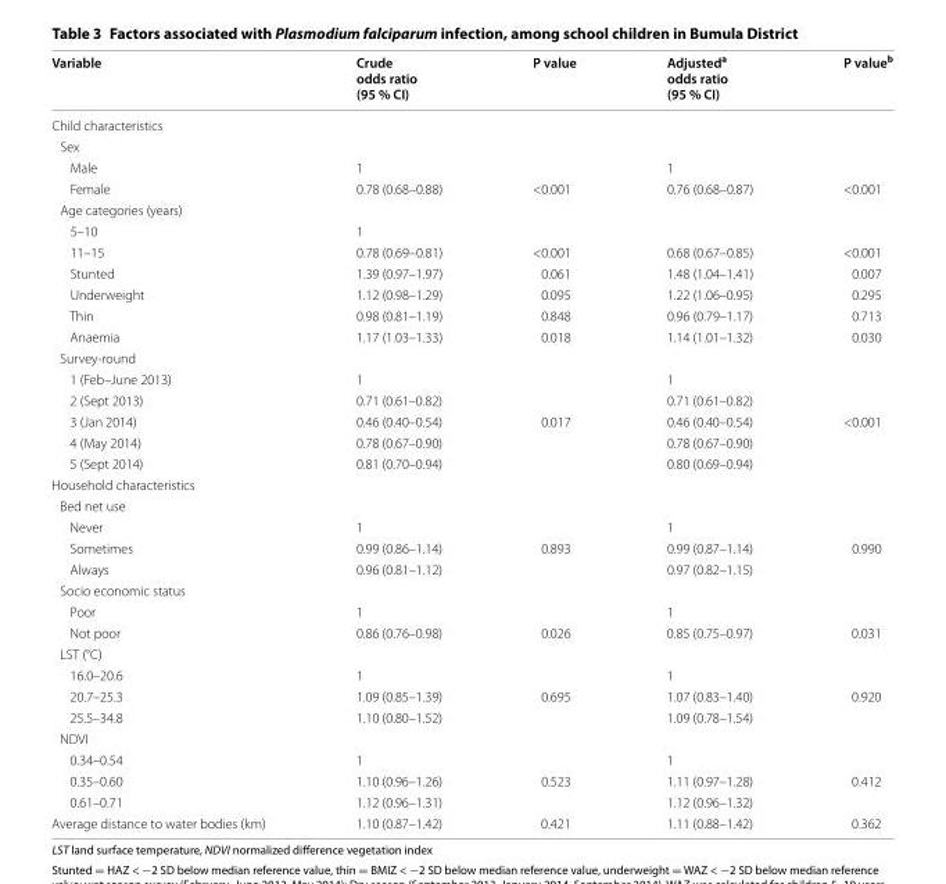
<table><thead><tr><td>Variable</td><td>Crude odds ratio (95 % CI)</td><td>P value</td><td>Adjusted<sup>a</sup> odds ratio (95 % CI)</td><td>P value<sup>b</sup></td></tr></thead><tbody><tr><td colspan="5">Child characteristics</td></tr><tr><td colspan="5">Sex</td></tr><tr><td>Male</td><td>1</td><td></td><td>1</td><td></td></tr><tr><td>Female</td><td>0.78 (0.68–0.88)</td><td>&lt;0.001</td><td>0.76 (0.68–0.87)</td><td>&lt;0.001</td></tr><tr><td colspan="5">Age categories (years)</td></tr><tr><td>5–10</td><td>1</td><td></td><td></td><td></td></tr><tr><td>11–15</td><td>0.78 (0.69–0.81)</td><td>&lt;0.001</td><td>0.68 (0.67–0.85)</td><td>&lt;0.001</td></tr><tr><td>Stunted</td><td>1.39 (0.97–1.97)</td><td>0.061</td><td>1.48 (1.04–1.41)</td><td>0.007</td></tr><tr><td>Underweight</td><td>1.12 (0.98–1.29)</td><td>0.095</td><td>1.22 (1.06–0.95)</td><td>0.295</td></tr><tr><td>Thin</td><td>0.98 (0.81–1.19)</td><td>0.848</td><td>0.96 (0.79–1.17)</td><td>0.713</td></tr><tr><td>Anaemia</td><td>1.17 (1.03–1.33)</td><td>0.018</td><td>1.14 (1.01–1.32)</td><td>0.030</td></tr><tr><td colspan="5">Survey‑round</td></tr><tr><td>1 (Feb–June 2013)</td><td>1</td><td></td><td>1</td><td></td></tr><tr><td>2 (Sept 2013)</td><td>0.71 (0.61–0.82)</td><td></td><td>0.71 (0.61–0.82)</td><td></td></tr><tr><td>3 (Jan 2014)</td><td>0.46 (0.40–0.54)</td><td>0.017</td><td>0.46 (0.40–0.54)</td><td>&lt;0.001</td></tr><tr><td>4 (May 2014)</td><td>0.78 (0.67–0.90)</td><td></td><td>0.78 (0.67–0.90)</td><td></td></tr><tr><td>5 (Sept 2014)</td><td>0.81 (0.70–0.94)</td><td></td><td>0.80 (0.69–0.94)</td><td></td></tr><tr><td colspan="5">Household characteristics</td></tr><tr><td colspan="5">Bed net use</td></tr><tr><td>Never</td><td>1</td><td></td><td>1</td><td></td></tr><tr><td>Sometimes</td><td>0.99 (0.86–1.14)</td><td>0.893</td><td>0.99 (0.87–1.14)</td><td>0.990</td></tr><tr><td>Always</td><td>0.96 (0.81–1.12)</td><td></td><td>0.97 (0.82–1.15)</td><td></td></tr><tr><td colspan="5">Socio economic status</td></tr><tr><td>Poor</td><td>1</td><td></td><td>1</td><td></td></tr><tr><td>Not poor</td><td>0.86 (0.76–0.98)</td><td>0.026</td><td>0.85 (0.75–0.97)</td><td>0.031</td></tr><tr><td colspan="5">LST (°C)</td></tr><tr><td>16.0–20.6</td><td>1</td><td></td><td>1</td><td></td></tr><tr><td>20.7–25.3</td><td>1.09 (0.85–1.39)</td><td>0.695</td><td>1.07 (0.83–1.40)</td><td>0.920</td></tr><tr><td>25.5–34.8</td><td>1.10 (0.80–1.52)</td><td></td><td>1.09 (0.78–1.54)</td><td></td></tr><tr><td colspan="5">NDVI</td></tr><tr><td>0.34–0.54</td><td>1</td><td></td><td>1</td><td></td></tr><tr><td>0.35–0.60</td><td>1.10 (0.96–1.26)</td><td>0.523</td><td>1.11 (0.97–1.28)</td><td>0.412</td></tr><tr><td>0.61–0.71</td><td>1.12 (0.96–1.31)</td><td></td><td>1.12 (0.96–1.32)</td><td></td></tr><tr><td>Average distance to water bodies (km)</td><td>1.10 (0.87–1.42)</td><td>0.421</td><td>1.11 (0.88–1.42)</td><td>0.362</td></tr></tbody></table>